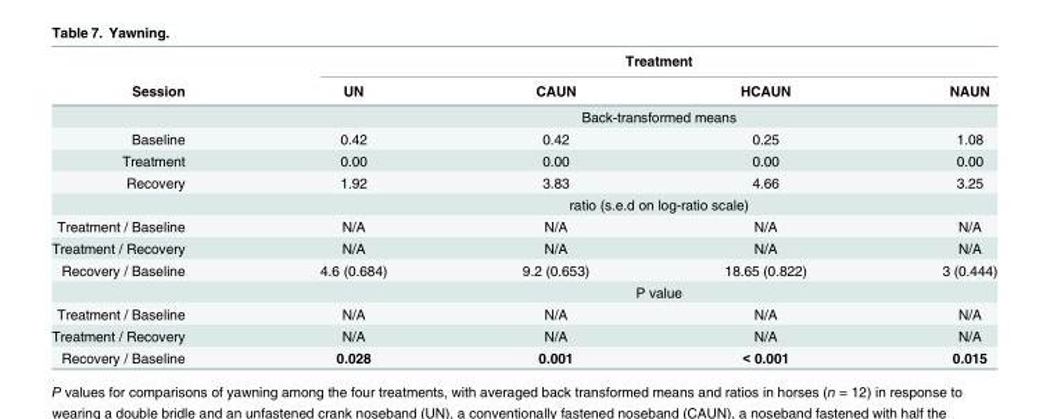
<table><thead><tr><td rowspan="2">Session</td><td colspan="4">Treatment</td></tr><tr><td>UN</td><td>CAUN</td><td>HCAUN</td><td>NAUN</td></tr></thead><tbody><tr><td></td><td colspan="4">Back-transformed means</td></tr><tr><td>Baseline</td><td>0.42</td><td>0.42</td><td>0.25</td><td>1.08</td></tr><tr><td>Treatment</td><td>0.00</td><td>0.00</td><td>0.00</td><td>0.00</td></tr><tr><td rowspan="2">Recovery</td><td>1.92</td><td>3.83</td><td>4.66</td><td>3.25</td></tr><tr><td colspan="4">ratio (s.e.d on log-ratio scale)</td></tr><tr><td>Treatment / Baseline</td><td>N/A</td><td>N/A</td><td>N/A</td><td>N/A</td></tr><tr><td>Treatment / Recovery</td><td>N/A</td><td>N/A</td><td>N/A</td><td>N/A</td></tr><tr><td rowspan="2">Recovery / Baseline</td><td>4.6 (0.684)</td><td>9.2 (0.653)</td><td>18.65 (0.822)</td><td>3 (0.444)</td></tr><tr><td colspan="4">P value</td></tr><tr><td>Treatment / Baseline</td><td>N/A</td><td>N/A</td><td>N/A</td><td>N/A</td></tr><tr><td>Treatment / Recovery</td><td>N/A</td><td>N/A</td><td>N/A</td><td>N/A</td></tr><tr><td>Recovery / Baseline</td><td>0.028</td><td>0.001</td><td>&lt; 0.001</td><td>0.015</td></tr></tbody></table>